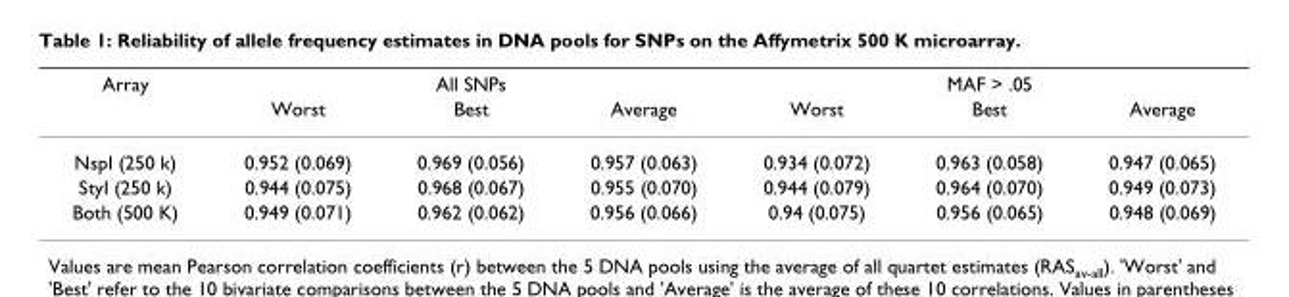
<table><thead><tr><td rowspan="2">Array</td><td colspan="3">All SNPs</td><td colspan="3">MAF &gt; .05</td></tr><tr><td>Worst</td><td>Best</td><td>Average</td><td>Worst</td><td>Best</td><td>Average</td></tr></thead><tbody><tr><td>NspI (250 k)</td><td>0.952 (0.069)</td><td>0.969 (0.056)</td><td>0.957 (0.063)</td><td>0.934 (0.072)</td><td>0.963 (0.058)</td><td>0.947 (0.065)</td></tr><tr><td>StyI (250 k)</td><td>0.944 (0.075)</td><td>0.968 (0.067)</td><td>0.955 (0.070)</td><td>0.944 (0.079)</td><td>0.964 (0.070)</td><td>0.949 (0.073)</td></tr><tr><td>Both (500 K)</td><td>0.949 (0.071)</td><td>0.962 (0.062)</td><td>0.956 (0.066)</td><td>0.94 (0.075)</td><td>0.956 (0.065)</td><td>0.948 (0.069)</td></tr></tbody></table>